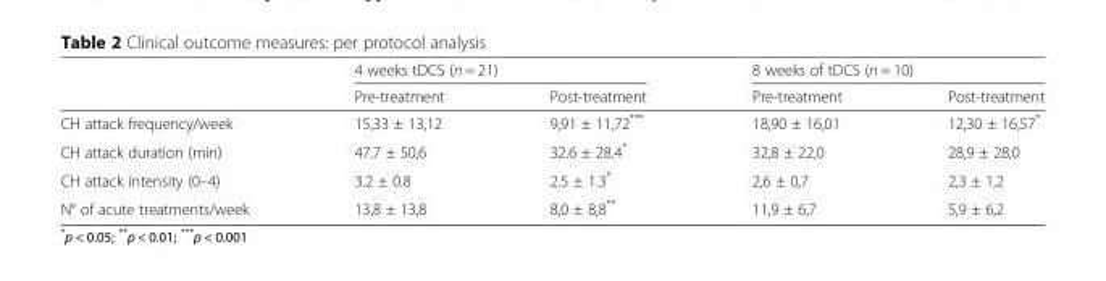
<table><thead><tr><td rowspan="2"></td><td colspan="2">4 weeks tDCS (n = 21)</td><td colspan="2">8 weeks of tDCS (n = 10)</td></tr><tr><td>Pre-treatment</td><td>Post-treatment</td><td>Pre-treatment</td><td>Post-treatment</td></tr></thead><tbody><tr><td>CH attack frequency/week</td><td>15,33 ± 13,12</td><td>9,91 ± 11,72***</td><td>18,90 ± 16,01</td><td>12,30 ± 16,57*</td></tr><tr><td>CH attack duration (min)</td><td>47.7 ± 50,6</td><td>32.6 ± 28.4*</td><td>32,8 ± 22,0</td><td>28,9 ± 28,0</td></tr><tr><td>CH attack intensity (0–4)</td><td>3.2 ± 0.8</td><td>2.5 ± 1.3*</td><td>2,6 ± 0,7</td><td>2,3 ± 1,2</td></tr><tr><td>N° of acute treatments/week</td><td>13,8 ± 13,8</td><td>8,0 ± 8,8**</td><td>11,9 ± 6,7</td><td>5,9 ± 6,2</td></tr></tbody></table>